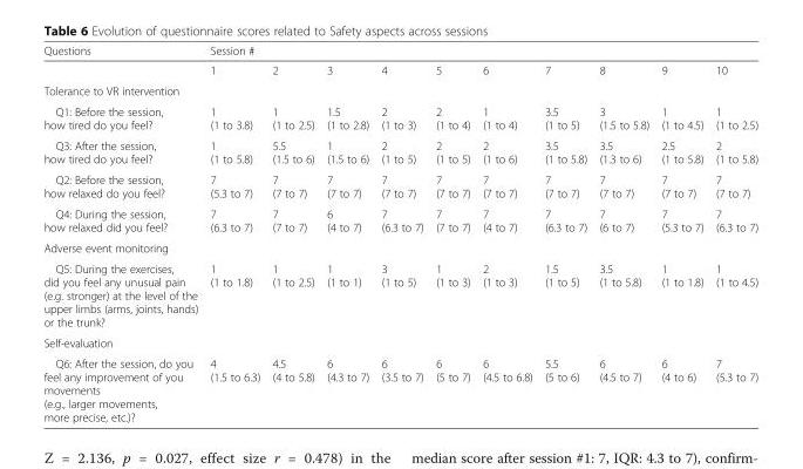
<table><thead><tr><td rowspan="2">Questions</td><td colspan="10">Session #</td></tr><tr><td>1</td><td>2</td><td>3</td><td>4</td><td>5</td><td>6</td><td>7</td><td>8</td><td>9</td><td>10</td></tr></thead><tbody><tr><td colspan="11">Tolerance to VR intervention</td></tr><tr><td>Q1: Before the session, how tired do you feel?</td><td>1 (1 to 3.8)</td><td>1 (1 to 2.5)</td><td>1.5 (1 to 2.8)</td><td>2 (1 to 3)</td><td>2 (1 to 4)</td><td>1 (1 to 4)</td><td>3.5 (1 to 5)</td><td>3 (1.5 to 5.8)</td><td>1 (1 to 4.5)</td><td>1 (1 to 2.5)</td></tr><tr><td>Q3: After the session, how tired do you feel?</td><td>1 (1 to 5.8)</td><td>5.5 (1.5 to 6)</td><td>1 (1.5 to 6)</td><td>2 (1 to 5)</td><td>2 (1 to 5)</td><td>2 (1 to 6)</td><td>3.5 (1 to 5.8)</td><td>3.5 (1.3 to 6)</td><td>2.5 (1 to 5.8)</td><td>2 (1 to 5.8)</td></tr><tr><td>Q2: Before the session, how relaxed do you feel?</td><td>7 (5.3 to 7)</td><td>7 (7 to 7)</td><td>7 (7 to 7)</td><td>7 (7 to 7)</td><td>7 (7 to 7)</td><td>7 (7 to 7)</td><td>7 (7 to 7)</td><td>7 (7 to 7)</td><td>7 (7 to 7)</td><td>7 (7 to 7)</td></tr><tr><td>Q4: During the session, how relaxed did you feel?</td><td>7 (6.3 to 7)</td><td>7 (7 to 7)</td><td>6 (4 to 7)</td><td>7 (6.3 to 7)</td><td>7 (7 to 7)</td><td>7 (4 to 7)</td><td>7 (6.3 to 7)</td><td>7 (6 to 7)</td><td>7 (5.3 to 7)</td><td>7 (6.3 to 7)</td></tr><tr><td colspan="11">Adverse event monitoring</td></tr><tr><td>Q5: During the exercises, did you feel any unusual pain (e.g. stronger) at the level of the upper limbs (arms, joints, hands) or the trunk?</td><td>1 (1 to 1.8)</td><td>1 (1 to 2.5)</td><td>1 (1 to 1)</td><td>3 (1 to 5)</td><td>1 (1 to 3)</td><td>2 (1 to 3)</td><td>1.5 (1 to 5)</td><td>3.5 (1 to 5.8)</td><td>1 (1 to 1.8)</td><td>1 (1 to 4.5)</td></tr><tr><td colspan="11">Self-evaluation</td></tr><tr><td>Q6: After the session, do you feel any improvement of you movements (e.g., larger movements, more precise, etc.)?</td><td>4 (1.5 to 6.3)</td><td>4.5 (4 to 5.8)</td><td>6 (4.3 to 7)</td><td>6 (3.5 to 7)</td><td>6 (5 to 7)</td><td>6 (4.5 to 6.8)</td><td>5.5 (5 to 6)</td><td>6 (4.5 to 7)</td><td>6 (4 to 6)</td><td>7 (5.3 to 7)</td></tr></tbody></table>